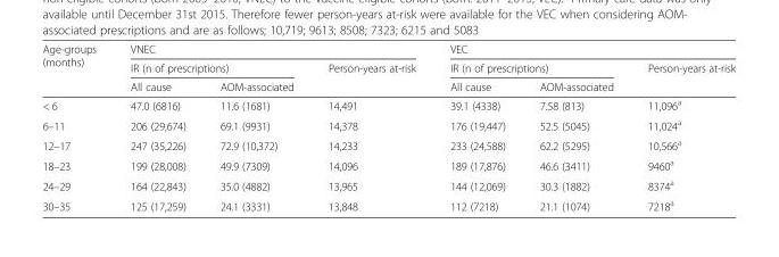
<table><thead><tr><td rowspan="3">Age-groups (months)</td><td colspan="3">VNEC</td><td colspan="3">VEC</td></tr><tr><td colspan="2">IR (n of prescriptions)</td><td rowspan="2">Person-years at-risk</td><td colspan="2">IR (n of prescriptions)</td><td rowspan="2">Person-years at-risk</td></tr><tr><td>All cause</td><td>AOM-associated</td><td>All cause</td><td>AOM-associated</td></tr></thead><tbody><tr><td>&lt; 6</td><td>47.0 (6816)</td><td>11.6 (1681)</td><td>14,491</td><td>39.1 (4338)</td><td>7.58 (813)</td><td>11,096<sup>a</sup></td></tr><tr><td>6–11</td><td>206 (29,674)</td><td>69.1 (9931)</td><td>14,378</td><td>176 (19,447)</td><td>52.5 (5045)</td><td>11,024<sup>a</sup></td></tr><tr><td>12–17</td><td>247 (35,226)</td><td>72.9 (10,372)</td><td>14,233</td><td>233 (24,588)</td><td>62.2 (5295)</td><td>10,566<sup>a</sup></td></tr><tr><td>18–23</td><td>199 (28,008)</td><td>49.9 (7309)</td><td>14,096</td><td>189 (17,876)</td><td>46.6 (3411)</td><td>9460<sup>a</sup></td></tr><tr><td>24–29</td><td>164 (22,843)</td><td>35.0 (4882)</td><td>13,965</td><td>144 (12,069)</td><td>30.3 (1882)</td><td>8374<sup>a</sup></td></tr><tr><td>30–35</td><td>125 (17,259)</td><td>24.1 (3331)</td><td>13,848</td><td>112 (7218)</td><td>21.1 (1074)</td><td>7218<sup>a</sup></td></tr></tbody></table>